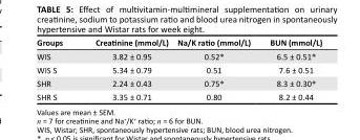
<table><thead><tr><td>Groups</td><td>Creatinine (mmol/L)</td><td>Na/K ratio (mmol/L)</td><td>BUN (mmol/L)</td></tr></thead><tbody><tr><td>WIS</td><td>3.82 ± 0.95</td><td>0.52*</td><td>6.5 ± 0.51*</td></tr><tr><td>WIS S</td><td>5.34 ± 0.79</td><td>0.51</td><td>7.6 ± 0.51</td></tr><tr><td>SHR</td><td>2.24 ± 0.43</td><td>0.75*</td><td>8.3 ± 0.30*</td></tr><tr><td>SHR S</td><td>3.35 ± 0.71</td><td>0.80</td><td>8.2 ± 0.44</td></tr></tbody></table>